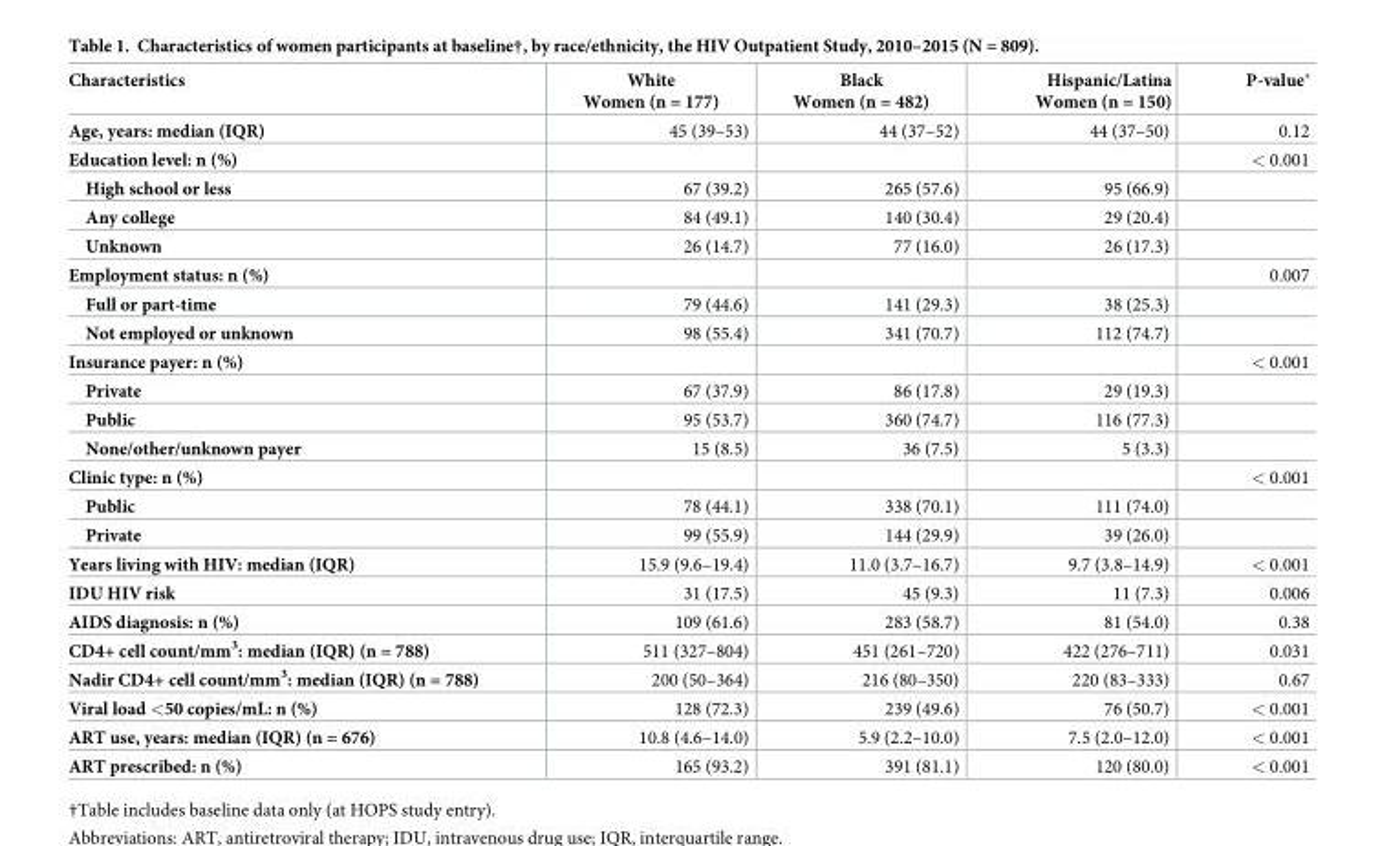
<table><thead><tr><td>Characteristics</td><td>White Women (n = 177)</td><td>Black Women (n = 482)</td><td>Hispanic/Latina Women (n = 150)</td><td>P-value*</td></tr></thead><tbody><tr><td>Age, years: median (IQR)</td><td>45 (39–53)</td><td>44 (37–52)</td><td>44 (37–50)</td><td>0.12</td></tr><tr><td>Education level: n (%)</td><td></td><td></td><td></td><td>&lt; 0.001</td></tr><tr><td>High school or less</td><td>67 (39.2)</td><td>265 (57.6)</td><td>95 (66.9)</td><td></td></tr><tr><td>Any college</td><td>84 (49.1)</td><td>140 (30.4)</td><td>29 (20.4)</td><td></td></tr><tr><td>Unknown</td><td>26 (14.7)</td><td>77 (16.0)</td><td>26 (17.3)</td><td></td></tr><tr><td>Employment status: n (%)</td><td></td><td></td><td></td><td>0.007</td></tr><tr><td>Full or part-time</td><td>79 (44.6)</td><td>141 (29.3)</td><td>38 (25.3)</td><td></td></tr><tr><td>Not employed or unknown</td><td>98 (55.4)</td><td>341 (70.7)</td><td>112 (74.7)</td><td></td></tr><tr><td>Insurance payer: n (%)</td><td></td><td></td><td></td><td>&lt; 0.001</td></tr><tr><td>Private</td><td>67 (37.9)</td><td>86 (17.8)</td><td>29 (19.3)</td><td></td></tr><tr><td>Public</td><td>95 (53.7)</td><td>360 (74.7)</td><td>116 (77.3)</td><td></td></tr><tr><td>None/other/unknown payer</td><td>15 (8.5)</td><td>36 (7.5)</td><td>5 (3.3)</td><td></td></tr><tr><td>Clinic type: n (%)</td><td></td><td></td><td></td><td>&lt; 0.001</td></tr><tr><td>Public</td><td>78 (44.1)</td><td>338 (70.1)</td><td>111 (74.0)</td><td></td></tr><tr><td>Private</td><td>99 (55.9)</td><td>144 (29.9)</td><td>39 (26.0)</td><td></td></tr><tr><td>Years living with HIV: median (IQR)</td><td>15.9 (9.6–19.4)</td><td>11.0 (3.7–16.7)</td><td>9.7 (3.8–14.9)</td><td>&lt; 0.001</td></tr><tr><td>IDU HIV risk</td><td>31 (17.5)</td><td>45 (9.3)</td><td>11 (7.3)</td><td>0.006</td></tr><tr><td>AIDS diagnosis: n (%)</td><td>109 (61.6)</td><td>283 (58.7)</td><td>81 (54.0)</td><td>0.38</td></tr><tr><td>CD4+ cell count/mm<sup>3</sup>: median (IQR) (n = 788)</td><td>511 (327–804)</td><td>451 (261–720)</td><td>422 (276–711)</td><td>0.031</td></tr><tr><td>Nadir CD4+ cell count/mm<sup>3</sup>: median (IQR) (n = 788)</td><td>200 (50–364)</td><td>216 (80–350)</td><td>220 (83–333)</td><td>0.67</td></tr><tr><td>Viral load &lt;50 copies/mL: n (%)</td><td>128 (72.3)</td><td>239 (49.6)</td><td>76 (50.7)</td><td>&lt; 0.001</td></tr><tr><td>ART use, years: median (IQR) (n = 676)</td><td>10.8 (4.6–14.0)</td><td>5.9 (2.2–10.0)</td><td>7.5 (2.0–12.0)</td><td>&lt; 0.001</td></tr><tr><td>ART prescribed: n (%)</td><td>165 (93.2)</td><td>391 (81.1)</td><td>120 (80.0)</td><td>&lt; 0.001</td></tr></tbody></table>